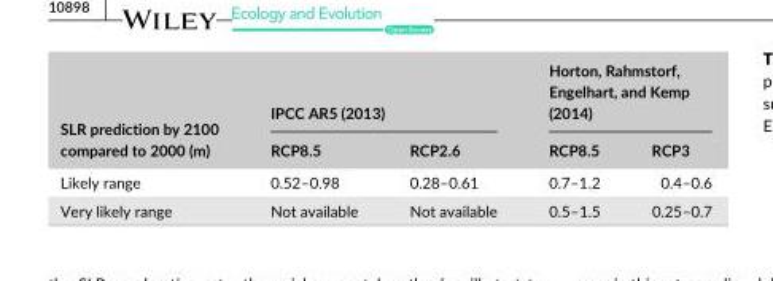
<table><thead><tr><td rowspan="2">SLR prediction by 2100 compared to 2000 (m)</td><td colspan="2">IPCC AR5 (2013)</td><td colspan="2">Horton, Rahmstorf, Engelhart, and Kemp (2014)</td></tr><tr><td>RCP8.5</td><td>RCP2.6</td><td>RCP8.5</td><td>RCP3</td></tr></thead><tbody><tr><td>Likely range</td><td>0.52–0.98</td><td>0.28–0.61</td><td>0.7–1.2</td><td>0.4–0.6</td></tr><tr><td>Very likely range</td><td>Not available</td><td>Not available</td><td>0.5–1.5</td><td>0.25–0.7</td></tr></tbody></table>